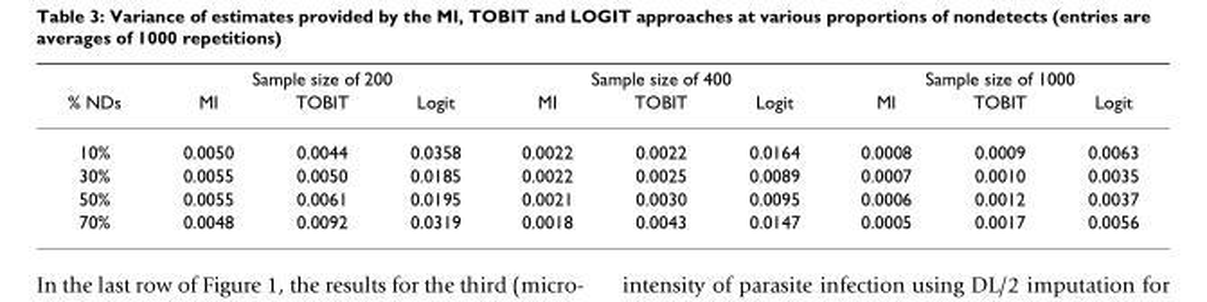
<table><thead><tr><td rowspan="2">% NDs</td><td colspan="3">Sample size of 200</td><td colspan="3">Sample size of 400</td><td colspan="3">Sample size of 1000</td></tr><tr><td>MI</td><td>TOBIT</td><td>Logit</td><td>MI</td><td>TOBIT</td><td>Logit</td><td>MI</td><td>TOBIT</td><td>Logit</td></tr></thead><tbody><tr><td>10%</td><td>0.0050</td><td>0.0044</td><td>0.0358</td><td>0.0022</td><td>0.0022</td><td>0.0164</td><td>0.0008</td><td>0.0009</td><td>0.0063</td></tr><tr><td>30%</td><td>0.0055</td><td>0.0050</td><td>0.0185</td><td>0.0022</td><td>0.0025</td><td>0.0089</td><td>0.0007</td><td>0.0010</td><td>0.0035</td></tr><tr><td>50%</td><td>0.0055</td><td>0.0061</td><td>0.0195</td><td>0.0021</td><td>0.0030</td><td>0.0095</td><td>0.0006</td><td>0.0012</td><td>0.0037</td></tr><tr><td>70%</td><td>0.0048</td><td>0.0092</td><td>0.0319</td><td>0.0018</td><td>0.0043</td><td>0.0147</td><td>0.0005</td><td>0.0017</td><td>0.0056</td></tr></tbody></table>